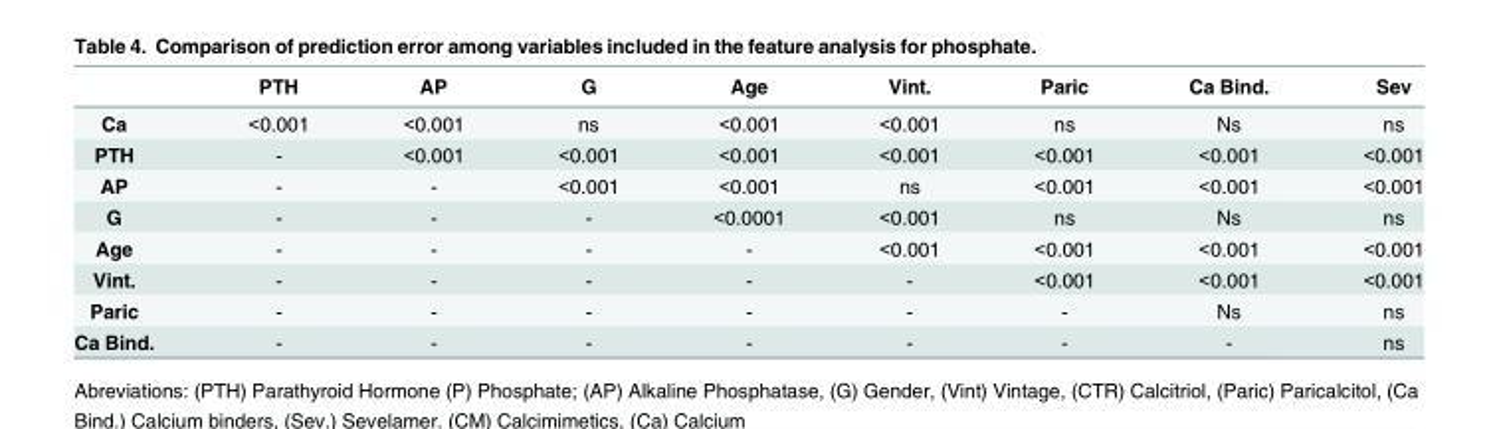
<table><thead><tr><td></td><td>PTH</td><td>AP</td><td>G</td><td>Age</td><td>Vint.</td><td>Paric</td><td>Ca Bind.</td><td>Sev</td></tr></thead><tbody><tr><td>Ca</td><td>&lt;0.001</td><td>&lt;0.001</td><td>ns</td><td>&lt;0.001</td><td>&lt;0.001</td><td>ns</td><td>Ns</td><td>ns</td></tr><tr><td>PTH</td><td>-</td><td>&lt;0.001</td><td>&lt;0.001</td><td>&lt;0.001</td><td>&lt;0.001</td><td>&lt;0.001</td><td>&lt;0.001</td><td>&lt;0.001</td></tr><tr><td>AP</td><td>-</td><td>-</td><td>&lt;0.001</td><td>&lt;0.001</td><td>ns</td><td>&lt;0.001</td><td>&lt;0.001</td><td>&lt;0.001</td></tr><tr><td>G</td><td>-</td><td>-</td><td>-</td><td>&lt;0.0001</td><td>&lt;0.001</td><td>ns</td><td>Ns</td><td>ns</td></tr><tr><td>Age</td><td>-</td><td>-</td><td>-</td><td>-</td><td>&lt;0.001</td><td>&lt;0.001</td><td>&lt;0.001</td><td>&lt;0.001</td></tr><tr><td>Vint.</td><td>-</td><td>-</td><td>-</td><td>-</td><td>-</td><td>&lt;0.001</td><td>&lt;0.001</td><td>&lt;0.001</td></tr><tr><td>Paric</td><td>-</td><td>-</td><td>-</td><td>-</td><td>-</td><td>-</td><td>Ns</td><td>ns</td></tr><tr><td>Ca Bind.</td><td>-</td><td>-</td><td>-</td><td>-</td><td>-</td><td>-</td><td>-</td><td>ns</td></tr></tbody></table>